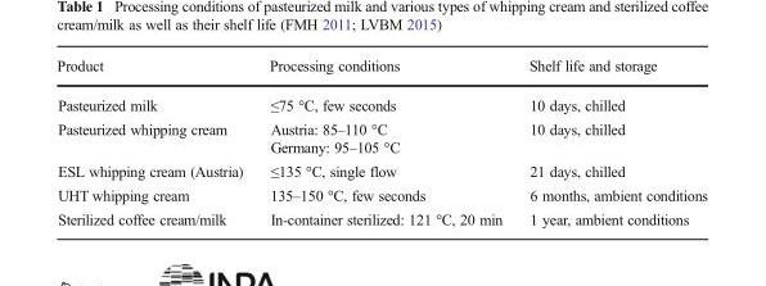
<table><thead><tr><td>Product</td><td>Processing conditions</td><td>Shelf life and storage</td></tr></thead><tbody><tr><td>Pasteurized milk</td><td>≤75 °C, few seconds</td><td>10 days, chilled</td></tr><tr><td>Pasteurized whipping cream</td><td>Austria: 85–110 °C Germany: 95–105 °C</td><td>10 days, chilled</td></tr><tr><td>ESL whipping cream (Austria)</td><td>≤135 °C, single flow</td><td>21 days, chilled</td></tr><tr><td>UHT whipping cream</td><td>135–150 °C, few seconds</td><td>6 months, ambient conditions</td></tr><tr><td>Sterilized coffee cream/milk</td><td>In-container sterilized: 121 °C, 20 min</td><td>1 year, ambient conditions</td></tr></tbody></table>